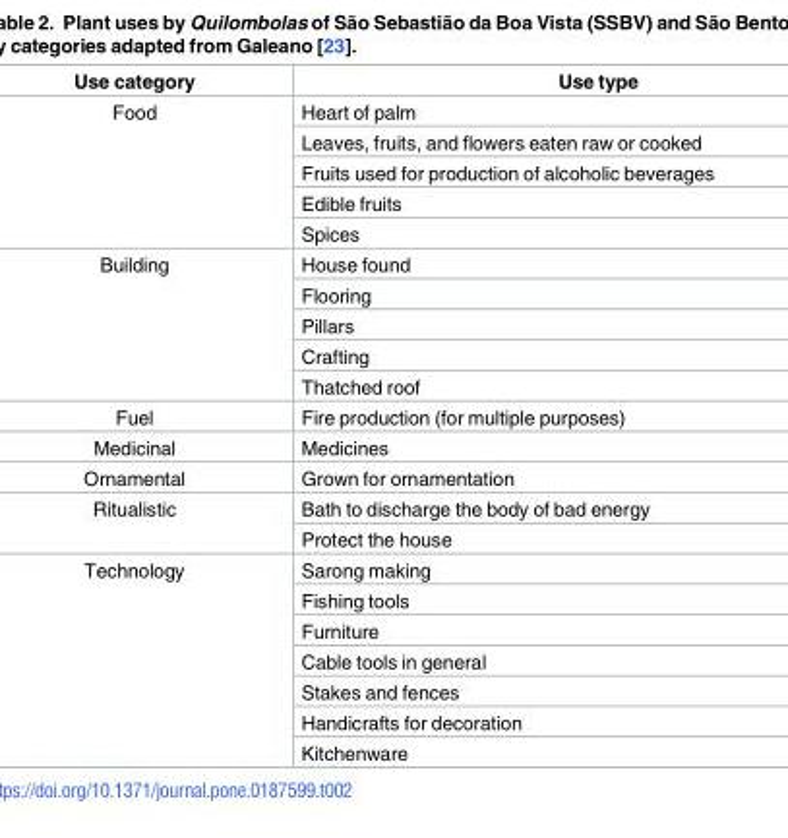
<table><thead><tr><td>Use category</td><td>Use type</td></tr></thead><tbody><tr><td rowspan="5">Food</td><td>Heart of palm</td></tr><tr><td>Leaves, fruits, and flowers eaten raw or cooked</td></tr><tr><td>Fruits used for production of alcoholic beverages</td></tr><tr><td>Edible fruits</td></tr><tr><td>Spices</td></tr><tr><td rowspan="5">Building</td><td>House found</td></tr><tr><td>Flooring</td></tr><tr><td>Pillars</td></tr><tr><td>Crafting</td></tr><tr><td>Thatched roof</td></tr><tr><td>Fuel</td><td>Fire production (for multiple purposes)</td></tr><tr><td>Medicinal</td><td>Medicines</td></tr><tr><td>Ornamental</td><td>Grown for ornamentation</td></tr><tr><td rowspan="2">Ritualistic</td><td>Bath to discharge the body of bad energy</td></tr><tr><td>Protect the house</td></tr><tr><td rowspan="7">Technology</td><td>Sarong making</td></tr><tr><td>Fishing tools</td></tr><tr><td>Furniture</td></tr><tr><td>Cable tools in general</td></tr><tr><td>Stakes and fences</td></tr><tr><td>Handicrafts for decoration</td></tr><tr><td>Kitchenware</td></tr></tbody></table>